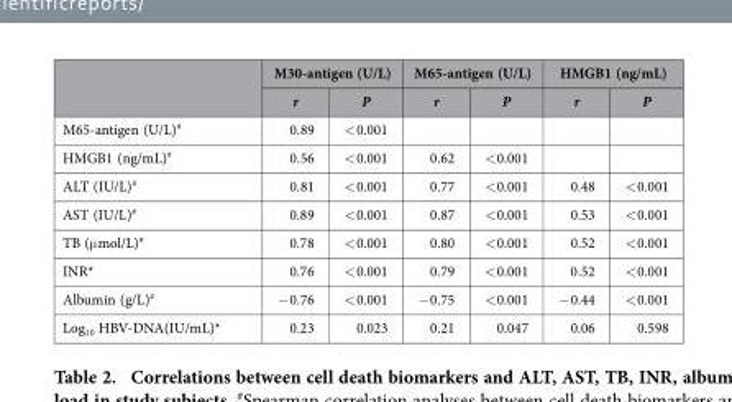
<table><thead><tr><td rowspan="2"></td><td colspan="2">M30-antigen (U/L)</td><td colspan="2">M65-antigen (U/L)</td><td colspan="2">HMGB1 (ng/mL)</td></tr><tr><td>r</td><td>P</td><td>r</td><td>P</td><td>r</td><td>P</td></tr></thead><tbody><tr><td>M65-antigen (U/L)<sup>#</sup></td><td>0.89</td><td>&lt; 0.001</td><td></td><td></td><td></td><td></td></tr><tr><td>HMGB1 (ng/mL)<sup>#</sup></td><td>0.56</td><td>&lt; 0.001</td><td>0.62</td><td>&lt; 0.001</td><td></td><td></td></tr><tr><td>ALT (IU/L)<sup>#</sup></td><td>0.81</td><td>&lt; 0.001</td><td>0.77</td><td>&lt; 0.001</td><td>0.48</td><td>&lt; 0.001</td></tr><tr><td>AST (IU/L)<sup>#</sup></td><td>0.89</td><td>&lt; 0.001</td><td>0.87</td><td>&lt; 0.001</td><td>0.53</td><td>&lt; 0.001</td></tr><tr><td>TB (μ mol/L)<sup>#</sup></td><td>0.78</td><td>&lt; 0.001</td><td>0.80</td><td>&lt; 0.001</td><td>0.52</td><td>&lt; 0.001</td></tr><tr><td>INR*</td><td>0.76</td><td>&lt; 0.001</td><td>0.79</td><td>&lt; 0.001</td><td>0.52</td><td>&lt; 0.001</td></tr><tr><td>Albumin (g/L)<sup>#</sup></td><td>− 0.76</td><td>&lt; 0.001</td><td>− 0.75</td><td>&lt; 0.001</td><td>− 0.44</td><td>&lt; 0.001</td></tr><tr><td>Log<sub>10</sub> HBV-DNA(IU/mL)*</td><td>0.23</td><td>0.023</td><td>0.21</td><td>0.047</td><td>0.06</td><td>0.598</td></tr></tbody></table>